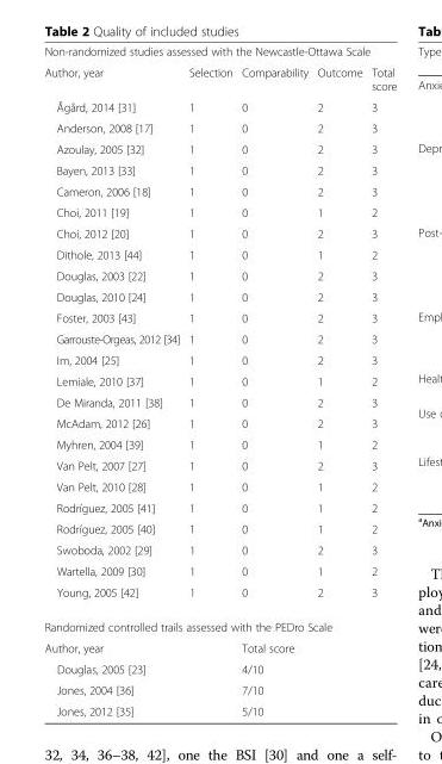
<table><tbody><tr><td colspan="5">Non-randomized studies assessed with the Newcastle-Ottawa Scale</td></tr><tr><td>Author, year</td><td>Selection</td><td>Comparability</td><td>Outcome</td><td>Total score</td></tr><tr><td>Ågård, 2014 [31]</td><td>1</td><td>0</td><td>2</td><td>3</td></tr><tr><td>Anderson, 2008 [17]</td><td>1</td><td>0</td><td>2</td><td>3</td></tr><tr><td>Azoulay, 2005 [32]</td><td>1</td><td>0</td><td>2</td><td>3</td></tr><tr><td>Bayen, 2013 [33]</td><td>1</td><td>0</td><td>2</td><td>3</td></tr><tr><td>Cameron, 2006 [18]</td><td>1</td><td>0</td><td>2</td><td>3</td></tr><tr><td>Choi, 2011 [19]</td><td>1</td><td>0</td><td>1</td><td>2</td></tr><tr><td>Choi, 2012 [20]</td><td>1</td><td>0</td><td>2</td><td>3</td></tr><tr><td>Dithole, 2013 [44]</td><td>1</td><td>0</td><td>1</td><td>2</td></tr><tr><td>Douglas, 2003 [22]</td><td>1</td><td>0</td><td>2</td><td>3</td></tr><tr><td>Douglas, 2010 [24]</td><td>1</td><td>0</td><td>2</td><td>3</td></tr><tr><td>Foster, 2003 [43]</td><td>1</td><td>0</td><td>2</td><td>3</td></tr><tr><td>Garrouste-Orgeas, 2012 [34]</td><td>1</td><td>0</td><td>2</td><td>3</td></tr><tr><td>Im, 2004 [25]</td><td>1</td><td>0</td><td>2</td><td>3</td></tr><tr><td>Lemiale, 2010 [37]</td><td>1</td><td>0</td><td>1</td><td>2</td></tr><tr><td>De Miranda, 2011 [38]</td><td>1</td><td>0</td><td>2</td><td>3</td></tr><tr><td>McAdam, 2012 [26]</td><td>1</td><td>0</td><td>2</td><td>3</td></tr><tr><td>Myhren, 2004 [39]</td><td>1</td><td>0</td><td>1</td><td>2</td></tr><tr><td>Van Pelt, 2007 [27]</td><td>1</td><td>0</td><td>2</td><td>3</td></tr><tr><td>Van Pelt, 2010 [28]</td><td>1</td><td>0</td><td>1</td><td>2</td></tr><tr><td>Rodríguez, 2005 [41]</td><td>1</td><td>0</td><td>1</td><td>2</td></tr><tr><td>Rodríguez, 2005 [40]</td><td>1</td><td>0</td><td>1</td><td>2</td></tr><tr><td>Swoboda, 2002 [29]</td><td>1</td><td>0</td><td>2</td><td>3</td></tr><tr><td>Wartella, 2009 [30]</td><td>1</td><td>0</td><td>1</td><td>2</td></tr><tr><td>Young, 2005 [42]</td><td>1</td><td>0</td><td>2</td><td>3</td></tr><tr><td colspan="5">Randomized controlled trails assessed with the PEDro Scale</td></tr><tr><td colspan="2">Author, year</td><td colspan="3">Total score</td></tr><tr><td colspan="2">Douglas, 2005 [23]</td><td colspan="3">4/10</td></tr><tr><td colspan="2">Jones, 2004 [36]</td><td colspan="3">7/10</td></tr><tr><td colspan="2">Jones, 2012 [35]</td><td colspan="3">5/10</td></tr></tbody></table>